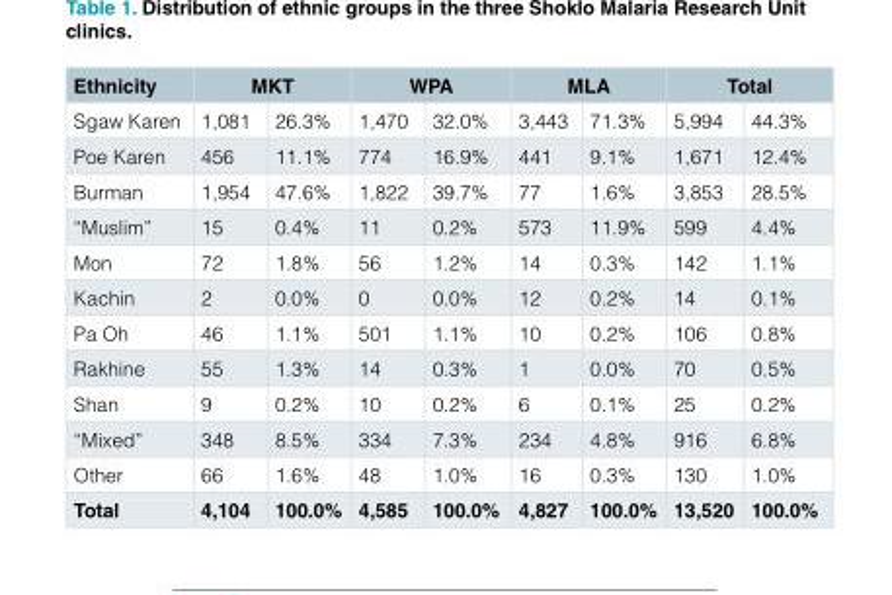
<table><thead><tr><td rowspan="2">Ethnicity Sgaw Karen</td><td colspan="2">MKT</td><td colspan="2">WPA</td><td colspan="2">MLA</td><td colspan="2">Total</td></tr><tr><td>1,081</td><td>26.3%</td><td>1,470</td><td>32.0%</td><td>3,443</td><td>71.3%</td><td>5,994</td><td>44.3%</td></tr></thead><tbody><tr><td>Poe Karen</td><td>456</td><td>11.1%</td><td>774</td><td>16.9%</td><td>441</td><td>9.1%</td><td>1,671</td><td>12.4%</td></tr><tr><td>Burman</td><td>1,954</td><td>47.6%</td><td>1,822</td><td>39.7%</td><td>77</td><td>1.6%</td><td>3,853</td><td>28.5%</td></tr><tr><td>“Muslim”</td><td>15</td><td>0.4%</td><td>11</td><td>0.2%</td><td>573</td><td>11.9%</td><td>599</td><td>4.4%</td></tr><tr><td>Mon</td><td>72</td><td>1.8%</td><td>56</td><td>1.2%</td><td>14</td><td>0.3%</td><td>142</td><td>1.1%</td></tr><tr><td>Kachin</td><td>2</td><td>0.0%</td><td>0</td><td>0.0%</td><td>12</td><td>0.2%</td><td>14</td><td>0.1%</td></tr><tr><td>Pa Oh</td><td>46</td><td>1.1%</td><td>501</td><td>1.1%</td><td>10</td><td>0.2%</td><td>106</td><td>0.8%</td></tr><tr><td>Rakhine</td><td>55</td><td>1.3%</td><td>14</td><td>0.3%</td><td>1</td><td>0.0%</td><td>70</td><td>0.5%</td></tr><tr><td>Shan</td><td>9</td><td>0.2%</td><td>10</td><td>0.2%</td><td>6</td><td>0.1%</td><td>25</td><td>0.2%</td></tr><tr><td>“Mixed”</td><td>348</td><td>8.5%</td><td>334</td><td>7.3%</td><td>234</td><td>4.8%</td><td>916</td><td>6.8%</td></tr><tr><td>Other</td><td>66</td><td>1.6%</td><td>48</td><td>1.0%</td><td>16</td><td>0.3%</td><td>130</td><td>1.0%</td></tr><tr><td>Total</td><td>4,104</td><td>100.0%</td><td>4,585</td><td>100.0%</td><td>4,827</td><td>100.0%</td><td>13,520</td><td>100.0%</td></tr></tbody></table>